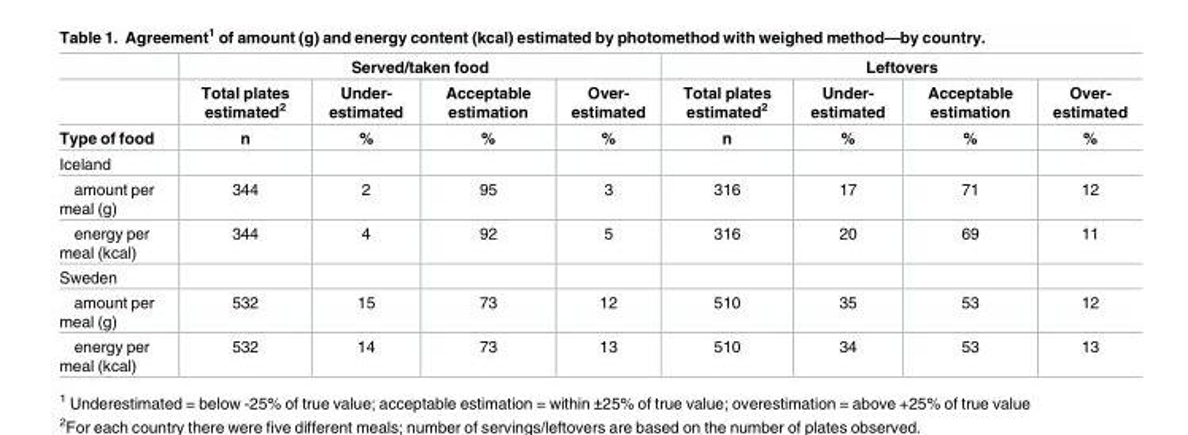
<table><thead><tr><td rowspan="3">Type of food</td><td colspan="4">Served/taken food</td><td colspan="4">Leftovers</td></tr><tr><td rowspan="2">Total plates estimated<sup>2</sup> n</td><td rowspan="2">Under- estimated %</td><td rowspan="2">Acceptable estimation %</td><td rowspan="2">Over- estimated %</td><td rowspan="2">Total plates estimated<sup>2</sup> n</td><td rowspan="2">Under- estimated %</td><td rowspan="2">Acceptable estimation %</td><td rowspan="2">Over- estimated %</td></tr><tr></tr></thead><tbody><tr><td colspan="9">Iceland</td></tr><tr><td>amount per meal (g)</td><td>344</td><td>2</td><td>95</td><td>3</td><td>316</td><td>17</td><td>71</td><td>12</td></tr><tr><td>energy per meal (kcal)</td><td>344</td><td>4</td><td>92</td><td>5</td><td>316</td><td>20</td><td>69</td><td>11</td></tr><tr><td colspan="9">Sweden</td></tr><tr><td>amount per meal (g)</td><td>532</td><td>15</td><td>73</td><td>12</td><td>510</td><td>35</td><td>53</td><td>12</td></tr><tr><td>energy per meal (kcal)</td><td>532</td><td>14</td><td>73</td><td>13</td><td>510</td><td>34</td><td>53</td><td>13</td></tr></tbody></table>